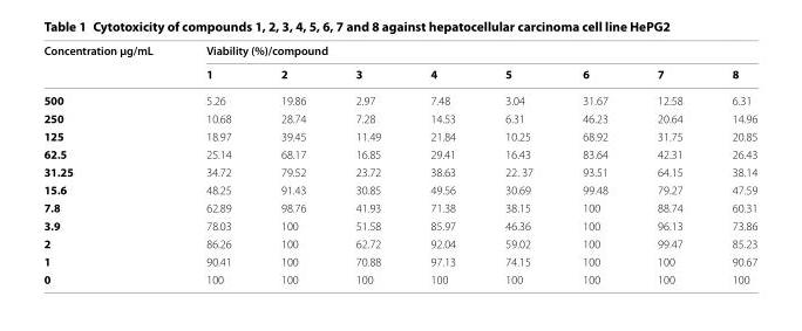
<table><thead><tr><td rowspan="2">Concentration µg/mL</td><td colspan="8">Viability (%)/compound</td></tr><tr><td>1</td><td>2</td><td>3</td><td>4</td><td>5</td><td>6</td><td>7</td><td>8</td></tr></thead><tbody><tr><td>500</td><td>5.26</td><td>19.86</td><td>2.97</td><td>7.48</td><td>3.04</td><td>31.67</td><td>12.58</td><td>6.31</td></tr><tr><td>250</td><td>10.68</td><td>28.74</td><td>7.28</td><td>14.53</td><td>6.31</td><td>46.23</td><td>20.64</td><td>14.96</td></tr><tr><td>125</td><td>18.97</td><td>39.45</td><td>11.49</td><td>21.84</td><td>10.25</td><td>68.92</td><td>31.75</td><td>20.85</td></tr><tr><td>62.5</td><td>25.14</td><td>68.17</td><td>16.85</td><td>29.41</td><td>16.43</td><td>83.64</td><td>42.31</td><td>26.43</td></tr><tr><td>31.25</td><td>34.72</td><td>79.52</td><td>23.72</td><td>38.63</td><td>22. 37</td><td>93.51</td><td>64.15</td><td>38.14</td></tr><tr><td>15.6</td><td>48.25</td><td>91.43</td><td>30.85</td><td>49.56</td><td>30.69</td><td>99.48</td><td>79.27</td><td>47.59</td></tr><tr><td>7.8</td><td>62.89</td><td>98.76</td><td>41.93</td><td>71.38</td><td>38.15</td><td>100</td><td>88.74</td><td>60.31</td></tr><tr><td>3.9</td><td>78.03</td><td>100</td><td>51.58</td><td>85.97</td><td>46.36</td><td>100</td><td>96.13</td><td>73.86</td></tr><tr><td>2</td><td>86.26</td><td>100</td><td>62.72</td><td>92.04</td><td>59.02</td><td>100</td><td>99.47</td><td>85.23</td></tr><tr><td>1</td><td>90.41</td><td>100</td><td>70.88</td><td>97.13</td><td>74.15</td><td>100</td><td>100</td><td>90.67</td></tr><tr><td>0</td><td>100</td><td>100</td><td>100</td><td>100</td><td>100</td><td>100</td><td>100</td><td>100</td></tr></tbody></table>